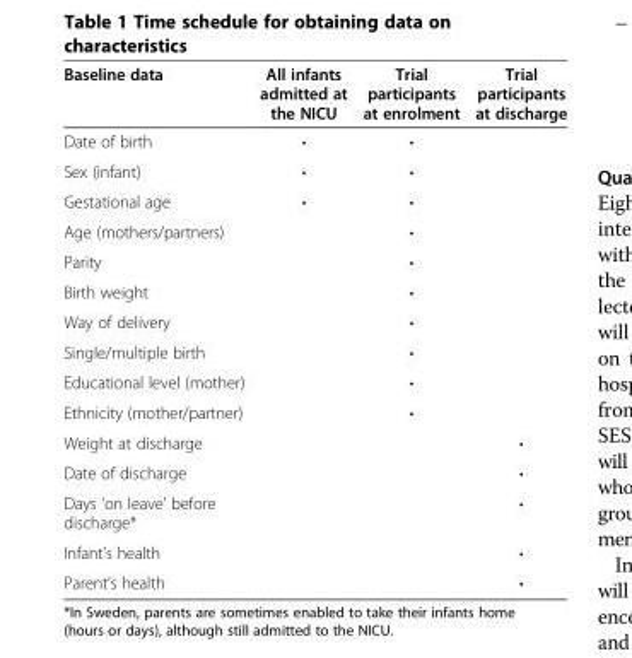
<table><thead><tr><td>Baseline data</td><td>All infants admitted at the NICU</td><td>Trial participants at enrolment</td><td>Trial participants at discharge</td></tr></thead><tbody><tr><td>Date of birth</td><td>•</td><td>•</td><td></td></tr><tr><td>Sex (infant)</td><td>•</td><td>•</td><td></td></tr><tr><td>Gestational age</td><td rowspan="2">•</td><td>•</td><td rowspan="2"></td></tr><tr><td>Age (mothers/partners)</td><td>•</td></tr><tr><td>Parity</td><td></td><td>•</td><td></td></tr><tr><td>Birth weight</td><td></td><td>•</td><td></td></tr><tr><td>Way of delivery</td><td></td><td>•</td><td></td></tr><tr><td>Single/multiple birth</td><td></td><td>•</td><td></td></tr><tr><td>Educational level (mother)</td><td></td><td>•</td><td></td></tr><tr><td>Ethnicity (mother/partner)</td><td></td><td>•</td><td></td></tr><tr><td>Weight at discharge</td><td></td><td></td><td>•</td></tr><tr><td>Date of discharge</td><td></td><td></td><td>•</td></tr><tr><td>Days ‘on leave’ before discharge*</td><td></td><td></td><td>•</td></tr><tr><td>Infant’s health</td><td></td><td></td><td>•</td></tr><tr><td>Parent’s health</td><td></td><td></td><td>•</td></tr></tbody></table>